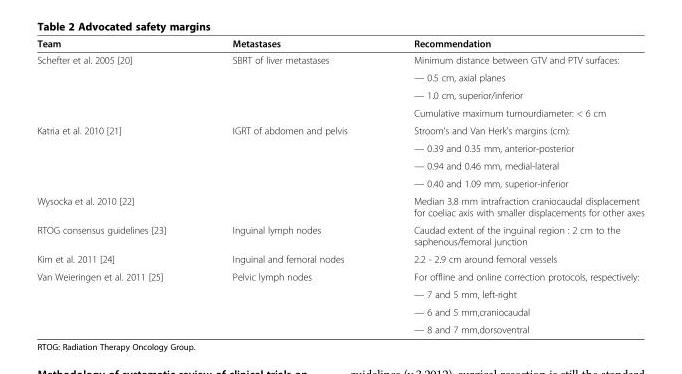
<table><thead><tr><td>Team</td><td>Metastases</td><td>Recommendation</td></tr></thead><tbody><tr><td rowspan="4">Schefter et al. 2005 [20]</td><td>SBRT of liver metastases</td><td>Minimum distance between GTV and PTV surfaces:</td></tr><tr><td></td><td>— 0.5 cm, axial planes</td></tr><tr><td></td><td>— 1.0 cm, superior/inferior</td></tr><tr><td></td><td>Cumulative maximum tumourdiameter: &lt; 6 cm</td></tr><tr><td rowspan="4">Katria et al. 2010 [21]</td><td>IGRT of abdomen and pelvis</td><td>Stroom&#x27;s and Van Herk&#x27;s margins (cm):</td></tr><tr><td></td><td>— 0.39 and 0.35 mm, anterior-posterior</td></tr><tr><td></td><td>— 0.94 and 0.46 mm, medial-lateral</td></tr><tr><td></td><td>— 0.40 and 1.09 mm, superior-inferior</td></tr><tr><td>Wysocka et al. 2010 [22]</td><td></td><td>Median 3.8 mm intrafraction craniocaudal displacement for coeliac axis with smaller displacements for other axes</td></tr><tr><td>RTOG consensus guidelines [23]</td><td>Inguinal lymph nodes</td><td>Caudad extent of the inguinal region : 2 cm to the saphenous/femoral junction</td></tr><tr><td>Kim et al. 2011 [24]</td><td>Inguinal and femoral nodes</td><td>2.2 - 2.9 cm around femoral vessels</td></tr><tr><td rowspan="4">Van Weieringen et al. 2011 [25]</td><td>Pelvic lymph nodes</td><td>For offline and online correction protocols, respectively:</td></tr><tr><td></td><td>— 7 and 5 mm, left-right</td></tr><tr><td></td><td>— 6 and 5 mm,craniocaudal</td></tr><tr><td></td><td>— 8 and 7 mm,dorsoventral</td></tr></tbody></table>